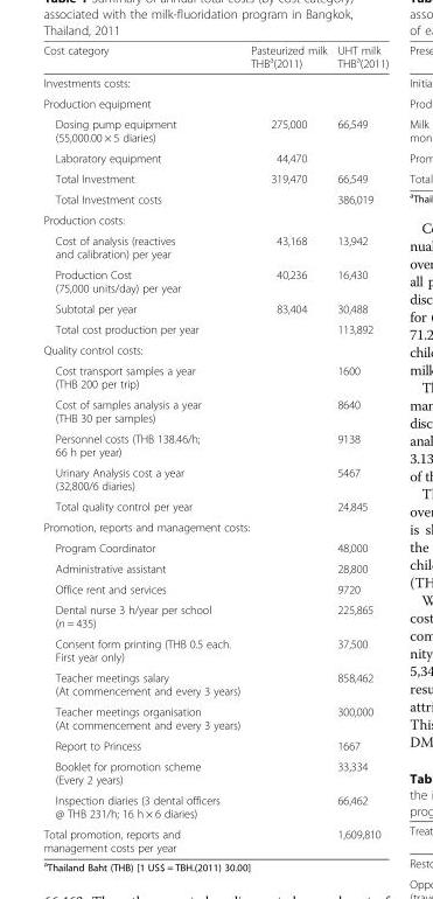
<table><thead><tr><td>Cost category</td><td>Pasteurized milk THB<sup>a</sup>(2011)</td><td>UHT milk THB<sup>a</sup>(2011)</td></tr></thead><tbody><tr><td colspan="3">Investments costs:</td></tr><tr><td colspan="3">Production equipment</td></tr><tr><td>Dosing pump equipment (55,000.00 × 5 diaries)</td><td>275,000</td><td>66,549</td></tr><tr><td>Laboratory equipment</td><td>44,470</td><td></td></tr><tr><td>Total Investment</td><td>319,470</td><td>66,549</td></tr><tr><td>Total Investment costs</td><td></td><td>386,019</td></tr><tr><td colspan="3">Production costs:</td></tr><tr><td>Cost of analysis (reactives and calibration) per year</td><td>43,168</td><td>13,942</td></tr><tr><td>Production Cost (75,000 units/day) per year</td><td>40,236</td><td>16,430</td></tr><tr><td>Subtotal per year</td><td>83,404</td><td>30,488</td></tr><tr><td>Total cost production per year</td><td></td><td>113,892</td></tr><tr><td colspan="3">Quality control costs:</td></tr><tr><td>Cost transport samples a year (THB 200 per trip)</td><td></td><td>1600</td></tr><tr><td>Cost of samples analysis a year (THB 30 per samples)</td><td></td><td>8640</td></tr><tr><td>Personnel costs (THB 138.46/h; 66 h per year)</td><td></td><td>9138</td></tr><tr><td>Urinary Analysis cost a year (32,800/6 diaries)</td><td></td><td>5467</td></tr><tr><td>Total quality control per year</td><td></td><td>24,845</td></tr><tr><td colspan="3">Promotion, reports and management costs:</td></tr><tr><td>Program Coordinator</td><td></td><td>48,000</td></tr><tr><td>Administrative assistant</td><td></td><td>28,800</td></tr><tr><td>Office rent and services</td><td></td><td>9720</td></tr><tr><td>Dental nurse 3 h/year per school (n = 435)</td><td></td><td>225,865</td></tr><tr><td>Consent form printing (THB 0.5 each. First year only)</td><td></td><td>37,500</td></tr><tr><td>Teacher meetings salary (At commencement and every 3 years)</td><td></td><td>858,462</td></tr><tr><td>Teacher meetings organisation (At commencement and every 3 years)</td><td></td><td>300,000</td></tr><tr><td>Report to Princess</td><td></td><td>1667</td></tr><tr><td>Booklet for promotion scheme (Every 2 years)</td><td></td><td>33,334</td></tr><tr><td>Inspection diaries (3 dental officers @ THB 231/h; 16 h × 6 diaries)</td><td></td><td>66,462</td></tr><tr><td>Total promotion, reports and management costs per year</td><td></td><td>1,609,810</td></tr></tbody></table>